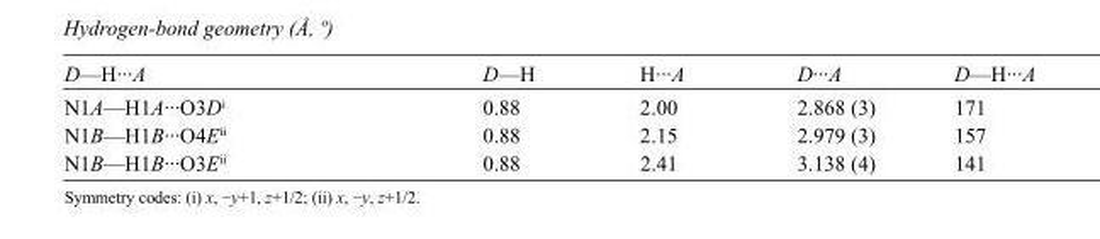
<table><tbody><tr><td>D—H···A</td><td>D—H</td><td>H···A</td><td>D···A</td><td>D—H···A</td></tr><tr><td>N1A—H1A···O3D<sup>i</sup></td><td>0.88</td><td>2.00</td><td>2.868 (3)</td><td>171</td></tr><tr><td>N1B—H1B···O4E<sup>ii</sup></td><td>0.88</td><td>2.15</td><td>2.979 (3)</td><td>157</td></tr><tr><td>N1B—H1B···O3E<sup>ii</sup></td><td>0.88</td><td>2.41</td><td>3.138 (4)</td><td>141</td></tr></tbody></table>